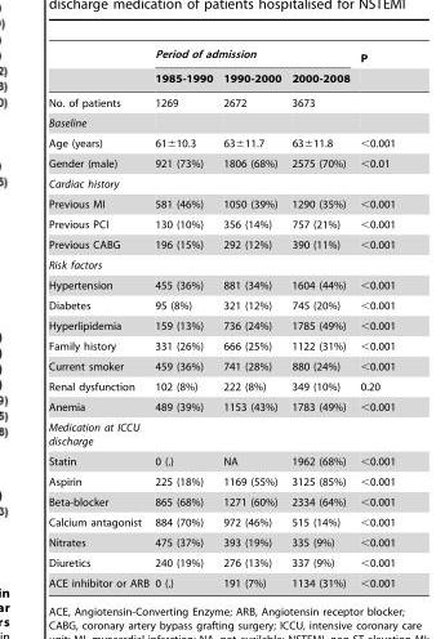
<table><thead><tr><td rowspan="2"></td><td colspan="3">Period of admission</td><td rowspan="2">P</td></tr><tr><td>1985-1990</td><td>1990-2000</td><td>2000-2008</td></tr></thead><tbody><tr><td>No. of patients</td><td>1269</td><td>2672</td><td>3673</td><td></td></tr><tr><td colspan="5">Baseline</td></tr><tr><td>Age (years)</td><td>61±10.3</td><td>63±11.7</td><td>63±11.8</td><td>&lt;0.001</td></tr><tr><td>Gender (male)</td><td>921 (73%)</td><td>1806 (68%)</td><td>2575 (70%)</td><td>&lt;0.01</td></tr><tr><td colspan="5">Cardiac history</td></tr><tr><td>Previous MI</td><td>581 (46%)</td><td>1050 (39%)</td><td>1290 (35%)</td><td>&lt;0.001</td></tr><tr><td>Previous PCI</td><td>130 (10%)</td><td>356 (14%)</td><td>757 (21%)</td><td>&lt;0.001</td></tr><tr><td>Previous CABG</td><td>196 (15%)</td><td>292 (12%)</td><td>390 (11%)</td><td>&lt;0.001</td></tr><tr><td colspan="5">Risk factors</td></tr><tr><td>Hypertension</td><td>455 (36%)</td><td>881 (34%)</td><td>1604 (44%)</td><td>&lt;0.001</td></tr><tr><td>Diabetes</td><td>95 (8%)</td><td>321 (12%)</td><td>745 (20%)</td><td>&lt;0.001</td></tr><tr><td>Hyperlipidemia</td><td>159 (13%)</td><td>736 (24%)</td><td>1785 (49%)</td><td>&lt;0.001</td></tr><tr><td>Family history</td><td>331 (26%)</td><td>666 (25%)</td><td>1122 (31%)</td><td>&lt;0.001</td></tr><tr><td>Current smoker</td><td>459 (36%)</td><td>741 (28%)</td><td>880 (24%)</td><td>&lt;0.001</td></tr><tr><td>Renal dysfunction</td><td>102 (8%)</td><td>222 (8%)</td><td>349 (10%)</td><td>0.20</td></tr><tr><td>Anemia</td><td>489 (39%)</td><td>1153 (43%)</td><td>1783 (49%)</td><td>&lt;0.001</td></tr><tr><td colspan="5">Medication at ICCU discharge</td></tr><tr><td>Statin</td><td>0 (.)</td><td>NA</td><td>1962 (68%)</td><td>&lt;0.001</td></tr><tr><td>Aspirin</td><td>225 (18%)</td><td>1169 (55%)</td><td>3125 (85%)</td><td>&lt;0.001</td></tr><tr><td>Beta-blocker</td><td>865 (68%)</td><td>1271 (60%)</td><td>2334 (64%)</td><td>&lt;0.001</td></tr><tr><td>Calcium antagonist</td><td>884 (70%)</td><td>972 (46%)</td><td>515 (14%)</td><td>&lt;0.001</td></tr><tr><td>Nitrates</td><td>475 (37%)</td><td>393 (19%)</td><td>335 (9%)</td><td>&lt;0.001</td></tr><tr><td>Diuretics</td><td>240 (19%)</td><td>276 (13%)</td><td>337 (9%)</td><td>&lt;0.001</td></tr><tr><td>ACE inhibitor or ARB</td><td>0 (.)</td><td>191 (7%)</td><td>1134 (31%)</td><td>&lt;0.001</td></tr></tbody></table>